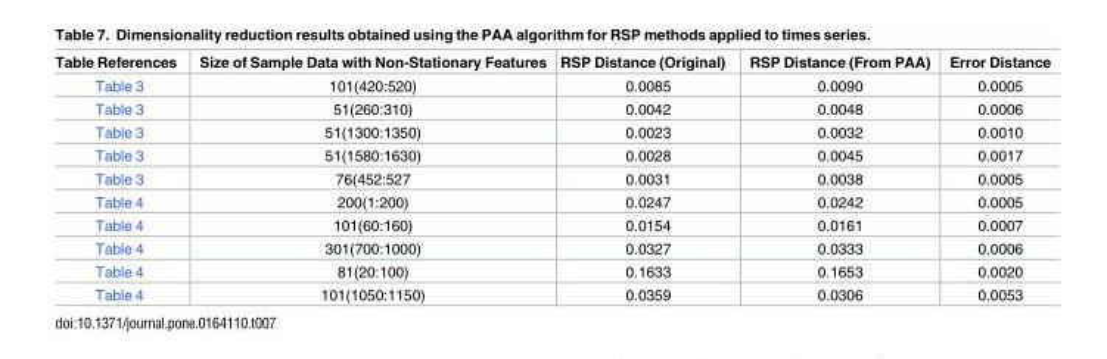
<table><thead><tr><td>Table References</td><td>Size of Sample Data with Non-Stationary Features</td><td>RSP Distance (Original)</td><td>RSP Distance (From PAA)</td><td>Error Distance</td></tr></thead><tbody><tr><td>Table 3</td><td>101(420:520)</td><td>0.0085</td><td>0.0090</td><td>0.0005</td></tr><tr><td>Table 3</td><td>51(260:310)</td><td>0.0042</td><td>0.0048</td><td>0.0006</td></tr><tr><td>Table 3</td><td>51(1300:1350)</td><td>0.0023</td><td>0.0032</td><td>0.0010</td></tr><tr><td>Table 3</td><td>51(1580:1630)</td><td>0.0028</td><td>0.0045</td><td>0.0017</td></tr><tr><td>Table 3</td><td>76(452:527</td><td>0.0031</td><td>0.0038</td><td>0.0005</td></tr><tr><td>Table 4</td><td>200(1:200)</td><td>0.0247</td><td>0.0242</td><td>0.0005</td></tr><tr><td>Table 4</td><td>101(60:160)</td><td>0.0154</td><td>0.0161</td><td>0.0007</td></tr><tr><td>Table 4</td><td>301(700:1000)</td><td>0.0327</td><td>0.0333</td><td>0.0006</td></tr><tr><td>Table 4</td><td>81(20:100)</td><td>0.1633</td><td>0.1653</td><td>0.0020</td></tr><tr><td>Table 4</td><td>101(1050:1150)</td><td>0.0359</td><td>0.0306</td><td>0.0053</td></tr></tbody></table>